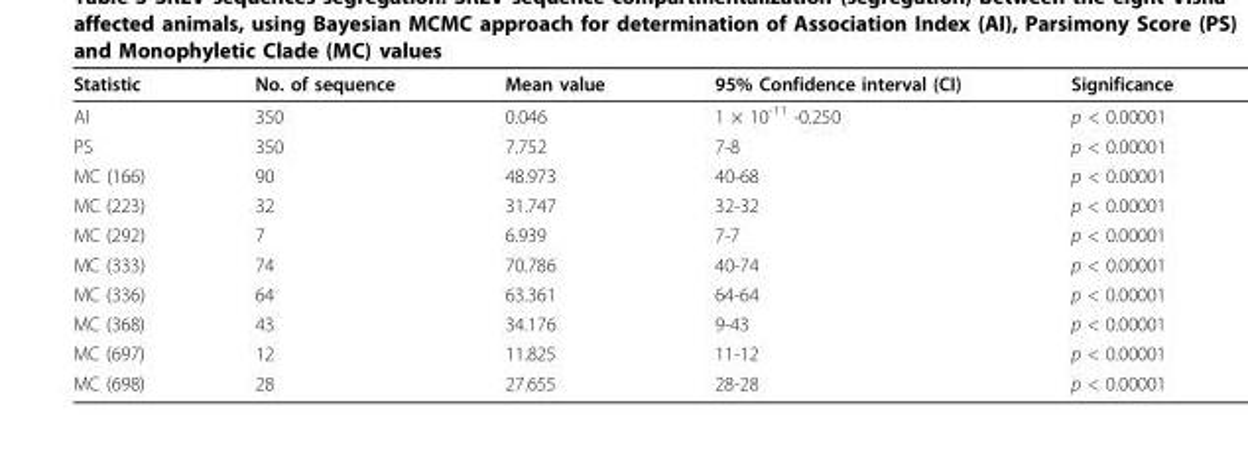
<table><thead><tr><td>Statistic</td><td>No. of sequence</td><td>Mean value</td><td>95% Confidence interval (CI)</td><td>Significance</td></tr></thead><tbody><tr><td>AI</td><td>350</td><td>0.046</td><td>1 × 10<sup>-11</sup> -0.250</td><td>p &lt; 0.00001</td></tr><tr><td>PS</td><td>350</td><td>7.752</td><td>7-8</td><td>p &lt; 0.00001</td></tr><tr><td>MC (166)</td><td>90</td><td>48.973</td><td>40-68</td><td>p &lt; 0.00001</td></tr><tr><td>MC (223)</td><td>32</td><td>31.747</td><td>32-32</td><td>p &lt; 0.00001</td></tr><tr><td>MC (292)</td><td>7</td><td>6.939</td><td>7-7</td><td>p &lt; 0.00001</td></tr><tr><td>MC (333)</td><td>74</td><td>70.786</td><td>40-74</td><td>p &lt; 0.00001</td></tr><tr><td>MC (336)</td><td>64</td><td>63.361</td><td>64-64</td><td>p &lt; 0.00001</td></tr><tr><td>MC (368)</td><td>43</td><td>34.176</td><td>9-43</td><td>p &lt; 0.00001</td></tr><tr><td>MC (697)</td><td>12</td><td>11.825</td><td>11-12</td><td>p &lt; 0.00001</td></tr><tr><td>MC (698)</td><td>28</td><td>27.655</td><td>28-28</td><td>p &lt; 0.00001</td></tr></tbody></table>